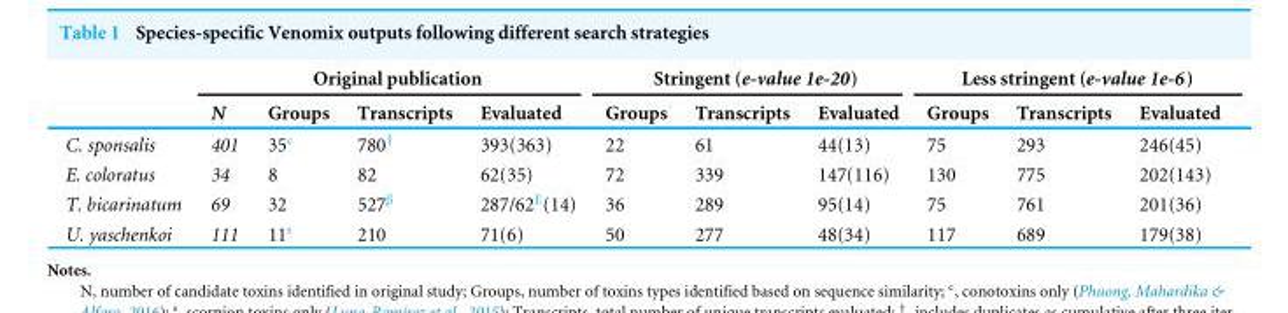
<table><thead><tr><td rowspan="2"></td><td colspan="4">Original publication</td><td colspan="3">Stringent (e-value 1e-20)</td><td colspan="3">Less stringent (e-value 1e-6)</td></tr><tr><td>N</td><td>Groups</td><td>Transcripts</td><td>Evaluated</td><td>Groups</td><td>Transcripts</td><td>Evaluated</td><td>Groups</td><td>Transcripts</td><td>Evaluated</td></tr></thead><tbody><tr><td>C. sponsalis</td><td>401</td><td>35<sup>c</sup></td><td>780<sup>†</sup></td><td>393(363)</td><td>22</td><td>61</td><td>44(13)</td><td>75</td><td>293</td><td>246(45)</td></tr><tr><td>E. coloratus</td><td>34</td><td>8</td><td>82</td><td>62(35)</td><td>72</td><td>339</td><td>147(116)</td><td>130</td><td>775</td><td>202(143)</td></tr><tr><td>T. bicarinatum</td><td>69</td><td>32</td><td>527<sup>β</sup></td><td>287/62<sup>E</sup>(14)</td><td>36</td><td>289</td><td>95(14)</td><td>75</td><td>761</td><td>201(36)</td></tr><tr><td>U. yaschenkoi</td><td>111</td><td>11<sup>s</sup></td><td>210</td><td>71(6)</td><td>50</td><td>277</td><td>48(34)</td><td>117</td><td>689</td><td>179(38)</td></tr></tbody></table>